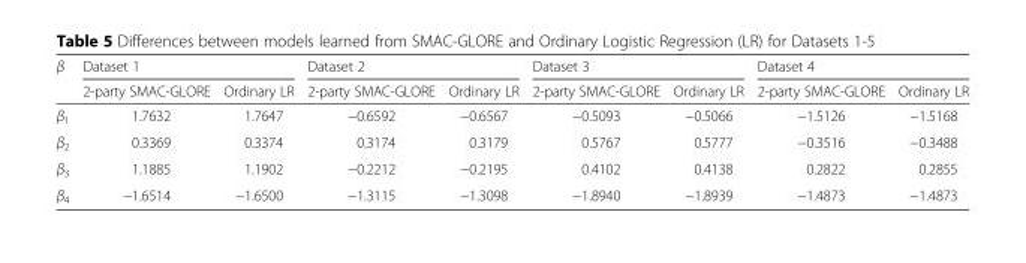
<table><thead><tr><td rowspan="2">β</td><td colspan="2">Dataset 1</td><td colspan="2">Dataset 2</td><td colspan="2">Dataset 3</td><td colspan="2">Dataset 4</td></tr><tr><td>2-party SMAC-GLORE</td><td>Ordinary LR</td><td>2-party SMAC-GLORE</td><td>Ordinary LR</td><td>2-party SMAC-GLORE</td><td>Ordinary LR</td><td>2-party SMAC-GLORE</td><td>Ordinary LR</td></tr></thead><tbody><tr><td>β<sub>1</sub></td><td>1.7632</td><td>1.7647</td><td>−0.6592</td><td>−0.6567</td><td>−0.5093</td><td>−0.5066</td><td>−1.5126</td><td>−1.5168</td></tr><tr><td>β<sub>2</sub></td><td>0.3369</td><td>0.3374</td><td>0.3174</td><td>0.3179</td><td>0.5767</td><td>0.5777</td><td>−0.3516</td><td>−0.3488</td></tr><tr><td>β<sub>3</sub></td><td>1.1885</td><td>1.1902</td><td>−0.2212</td><td>−0.2195</td><td>0.4102</td><td>0.4138</td><td>0.2822</td><td>0.2855</td></tr><tr><td>β<sub>4</sub></td><td>−1.6514</td><td>−1.6500</td><td>−1.3115</td><td>−1.3098</td><td>−1.8940</td><td>−1.8939</td><td>−1.4873</td><td>−1.4873</td></tr></tbody></table>